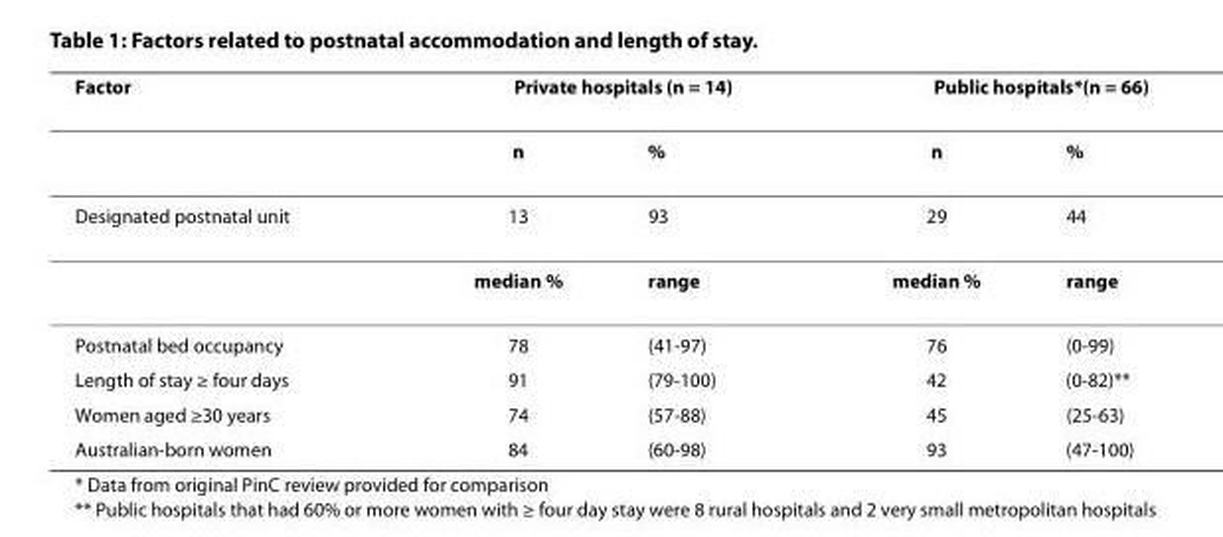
<table><thead><tr><td rowspan="2">Factor</td><td colspan="2">Private hospitals (n = 14)</td><td colspan="2">Public hospitals*(n = 66)</td></tr><tr><td>n</td><td>%</td><td>n</td><td>%</td></tr></thead><tbody><tr><td rowspan="2">Designated postnatal unit</td><td>13</td><td>93</td><td>29</td><td>44</td></tr><tr><td>median %</td><td>range</td><td>median %</td><td>range</td></tr><tr><td>Postnatal bed occupancy</td><td>78</td><td>(41-97)</td><td>76</td><td>(0-99)</td></tr><tr><td>Length of stay ≥ four days</td><td>91</td><td>(79-100)</td><td>42</td><td>(0-82)**</td></tr><tr><td>Women aged ≥30 years</td><td>74</td><td>(57-88)</td><td>45</td><td>(25-63)</td></tr><tr><td>Australian-born women</td><td>84</td><td>(60-98)</td><td>93</td><td>(47-100)</td></tr></tbody></table>